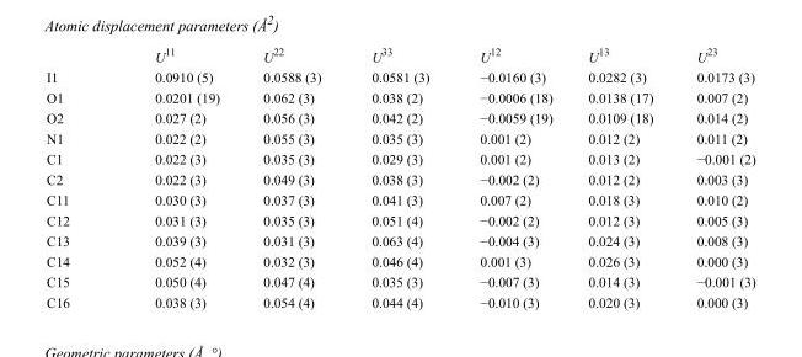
<table><thead><tr><td></td><td>U<sup>11</sup></td><td>U<sup>22</sup></td><td>U<sup>33</sup></td><td>U<sup>12</sup></td><td>U<sup>13</sup></td><td>U<sup>23</sup></td></tr></thead><tbody><tr><td>I1</td><td>0.0910 (5)</td><td>0.0588 (3)</td><td>0.0581 (3)</td><td>−0.0160 (3)</td><td>0.0282 (3)</td><td>0.0173 (3)</td></tr><tr><td>O1</td><td>0.0201 (19)</td><td>0.062 (3)</td><td>0.038 (2)</td><td>−0.0006 (18)</td><td>0.0138 (17)</td><td>0.007 (2)</td></tr><tr><td>O2</td><td>0.027 (2)</td><td>0.056 (3)</td><td>0.042 (2)</td><td>−0.0059 (19)</td><td>0.0109 (18)</td><td>0.014 (2)</td></tr><tr><td>N1</td><td>0.022 (2)</td><td>0.055 (3)</td><td>0.035 (3)</td><td>0.001 (2)</td><td>0.012 (2)</td><td>0.011 (2)</td></tr><tr><td>C1</td><td>0.022 (3)</td><td>0.035 (3)</td><td>0.029 (3)</td><td>0.001 (2)</td><td>0.013 (2)</td><td>−0.001 (2)</td></tr><tr><td>C2</td><td>0.022 (3)</td><td>0.049 (3)</td><td>0.038 (3)</td><td>−0.002 (2)</td><td>0.012 (2)</td><td>0.003 (3)</td></tr><tr><td>C11</td><td>0.030 (3)</td><td>0.037 (3)</td><td>0.041 (3)</td><td>0.007 (2)</td><td>0.018 (3)</td><td>0.010 (2)</td></tr><tr><td>C12</td><td>0.031 (3)</td><td>0.035 (3)</td><td>0.051 (4)</td><td>−0.002 (2)</td><td>0.012 (3)</td><td>0.005 (3)</td></tr><tr><td>C13</td><td>0.039 (3)</td><td>0.031 (3)</td><td>0.063 (4)</td><td>−0.004 (3)</td><td>0.024 (3)</td><td>0.008 (3)</td></tr><tr><td>C14</td><td>0.052 (4)</td><td>0.032 (3)</td><td>0.046 (4)</td><td>0.001 (3)</td><td>0.026 (3)</td><td>0.000 (3)</td></tr><tr><td>C15</td><td>0.050 (4)</td><td>0.047 (4)</td><td>0.035 (3)</td><td>−0.007 (3)</td><td>0.014 (3)</td><td>−0.001 (3)</td></tr><tr><td>C16</td><td>0.038 (3)</td><td>0.054 (4)</td><td>0.044 (4)</td><td>−0.010 (3)</td><td>0.020 (3)</td><td>0.000 (3)</td></tr></tbody></table>